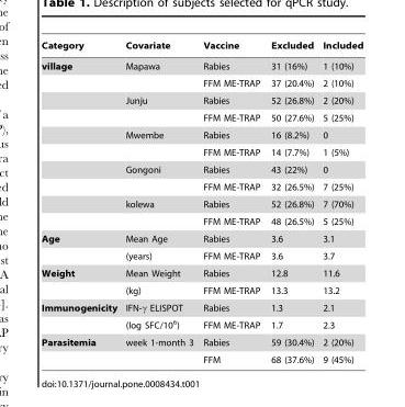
<table><thead><tr><td>Category</td><td>Covariate</td><td>Vaccine</td><td>Excluded</td><td>Included</td></tr></thead><tbody><tr><td rowspan="10">village</td><td>Mapawa</td><td>Rabies</td><td>31 (16%)</td><td>1 (10%)</td></tr><tr><td></td><td>FFM ME-TRAP</td><td>37 (20.4%)</td><td>2 (10%)</td></tr><tr><td>Junju</td><td>Rabies</td><td>52 (26.8%)</td><td>2 (20%)</td></tr><tr><td></td><td>FFM ME-TRAP</td><td>50 (27.6%)</td><td>5 (25%)</td></tr><tr><td>Mwembe</td><td>Rabies</td><td>16 (8.2%)</td><td>0</td></tr><tr><td></td><td>FFM ME-TRAP</td><td>14 (7.7%)</td><td>1 (5%)</td></tr><tr><td>Gongoni</td><td>Rabies</td><td>43 (22%)</td><td>0</td></tr><tr><td></td><td>FFM ME-TRAP</td><td>32 (26.5%)</td><td>7 (25%)</td></tr><tr><td>kolewa</td><td>Rabies</td><td>52 (26.8%)</td><td>7 (70%)</td></tr><tr><td></td><td>FFM ME-TRAP</td><td>48 (26.5%)</td><td>5 (25%)</td></tr><tr><td rowspan="2">Age</td><td>Mean Age</td><td>Rabies</td><td>3.6</td><td>3.1</td></tr><tr><td>(years)</td><td>FFM ME-TRAP</td><td>3.6</td><td>3.7</td></tr><tr><td rowspan="2">Weight</td><td>Mean Weight</td><td>Rabies</td><td>12.8</td><td>11.6</td></tr><tr><td>(kg)</td><td>FFM ME-TRAP</td><td>13.3</td><td>13.2</td></tr><tr><td rowspan="2">Immunogenicity</td><td>IFN-γ ELISPOT</td><td>Rabies</td><td>1.3</td><td>2.1</td></tr><tr><td>(log SFC/10<sup>6</sup>)</td><td>FFM ME-TRAP</td><td>1.7</td><td>2.3</td></tr><tr><td rowspan="2">Parasitemia</td><td>week 1-month 3</td><td>Rabies</td><td>59 (30.4%)</td><td>2 (20%)</td></tr><tr><td></td><td>FFM</td><td>68 (37.6%)</td><td>9 (45%)</td></tr></tbody></table>